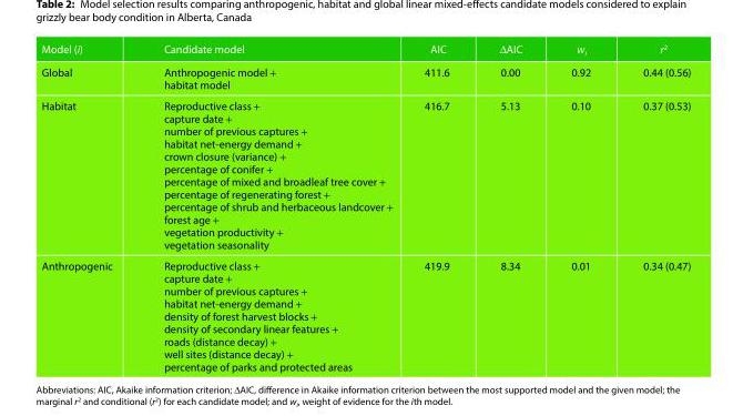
<table><thead><tr><td>Model (i)</td><td>Candidate model</td><td>AIC</td><td>ΔAIC</td><td>w<sub>i</sub></td><td>r<sup>2</sup></td></tr></thead><tbody><tr><td>Global</td><td>Anthropogenic model + habitat model</td><td>411.6</td><td>0.00</td><td>0.92</td><td>0.44 (0.56)</td></tr><tr><td>Habitat</td><td>Reproductive class + capture date + number of previous captures + habitat net-energy demand + crown closure (variance) + percentage of conifer + percentage of mixed and broadleaf tree cover + percentage of regenerating forest + percentage of shrub and herbaceous landcover + forest age + vegetation productivity + vegetation seasonality</td><td>416.7</td><td>5.13</td><td>0.10</td><td>0.37 (0.53)</td></tr><tr><td>Anthropogenic</td><td>Reproductive class + capture date + number of previous captures + habitat net-energy demand + density of forest harvest blocks + density of secondary linear features + roads (distance decay) + well sites (distance decay) + percentage of parks and protected areas</td><td>419.9</td><td>8.34</td><td>0.01</td><td>0.34 (0.47)</td></tr></tbody></table>